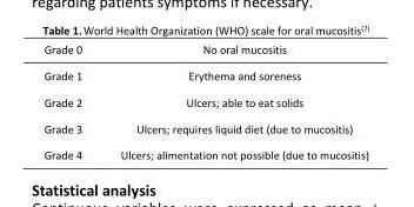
<table><thead><tr><td>Grade 0</td><td>No oral mucositis</td></tr></thead><tbody><tr><td>Grade 1</td><td>Erythema and soreness</td></tr><tr><td>Grade 2</td><td>Ulcers; able to eat solids</td></tr><tr><td>Grade 3</td><td>Ulcers; requires liquid diet (due to mucositis)</td></tr><tr><td>Grade 4</td><td>Ulcers; alimentation not possible (due to mucositis)</td></tr></tbody></table>